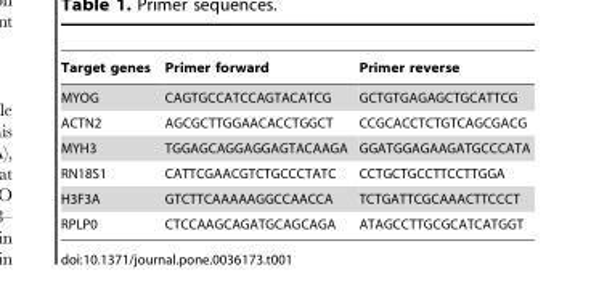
<table><thead><tr><td>Target genes</td><td>Primer forward</td><td>Primer reverse</td></tr></thead><tbody><tr><td>MYOG</td><td>CAGTGCCATCCAGTACATCG</td><td>GCTGTGAGAGCTGCATTCG</td></tr><tr><td>ACTN2</td><td>AGCGCTTGGAACACCTGGCT</td><td>CCGCACCTCTGTCAGCGACG</td></tr><tr><td>MYH3</td><td>TGGAGCAGGAGGAGTACAAGA</td><td>GGATGGAGAAGATGCCCATA</td></tr><tr><td>RN18S1</td><td>CATTCGAACGTCTGCCCTATC</td><td>CCTGCTGCCTTCCTTGGA</td></tr><tr><td>H3F3A</td><td>GTCTTCAAAAAGGCCAACCA</td><td>TCTGATTCGCAAACTTCCCT</td></tr><tr><td>RPLP0</td><td>CTCCAAGCAGATGCAGCAGA</td><td>ATAGCCTTGCGCATCATGGT</td></tr></tbody></table>